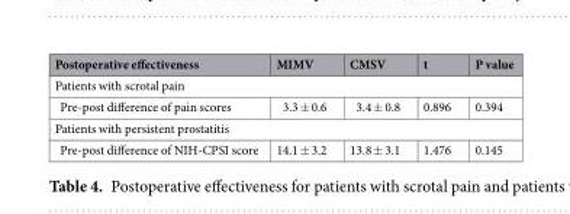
<table><thead><tr><td>Postoperative effectiveness</td><td>MIMV</td><td>CMSV</td><td>t</td><td>P value</td></tr></thead><tbody><tr><td colspan="5">Patients with scrotal pain</td></tr><tr><td>Pre-post difference of pain scores</td><td>3.3 ± 0.6</td><td>3.4 ± 0.8</td><td>0.896</td><td>0.394</td></tr><tr><td colspan="5">Patients with persistent prostatitis</td></tr><tr><td>Pre-post difference of NIH-CPSI score</td><td>14.1 ± 3.2</td><td>13.8 ± 3.1</td><td>1.476</td><td>0.145</td></tr></tbody></table>